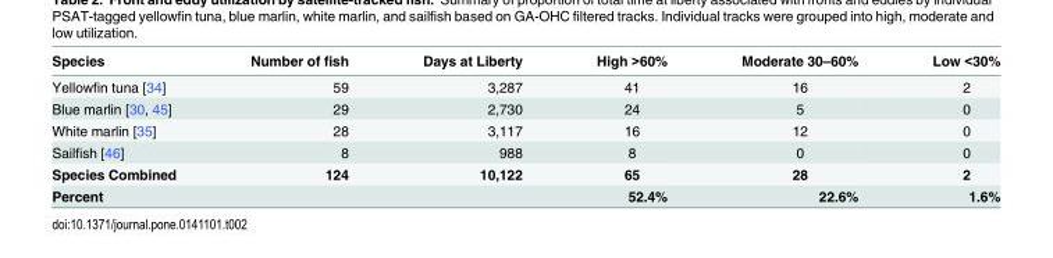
<table><thead><tr><td>Species</td><td>Number of fish</td><td>Days at Liberty</td><td>High &gt;60%</td><td>Moderate 30–60%</td><td>Low &lt;30%</td></tr></thead><tbody><tr><td>Yellowfin tuna [34]</td><td>59</td><td>3,287</td><td>41</td><td>16</td><td>2</td></tr><tr><td>Blue marlin [30, 45]</td><td>29</td><td>2,730</td><td>24</td><td>5</td><td>0</td></tr><tr><td>White marlin [35]</td><td>28</td><td>3,117</td><td>16</td><td>12</td><td>0</td></tr><tr><td>Sailfish [46]</td><td>8</td><td>988</td><td>8</td><td>0</td><td>0</td></tr><tr><td>Species Combined</td><td>124</td><td>10,122</td><td>65</td><td>28</td><td>2</td></tr><tr><td>Percent</td><td></td><td></td><td>52.4%</td><td>22.6%</td><td>1.6%</td></tr></tbody></table>